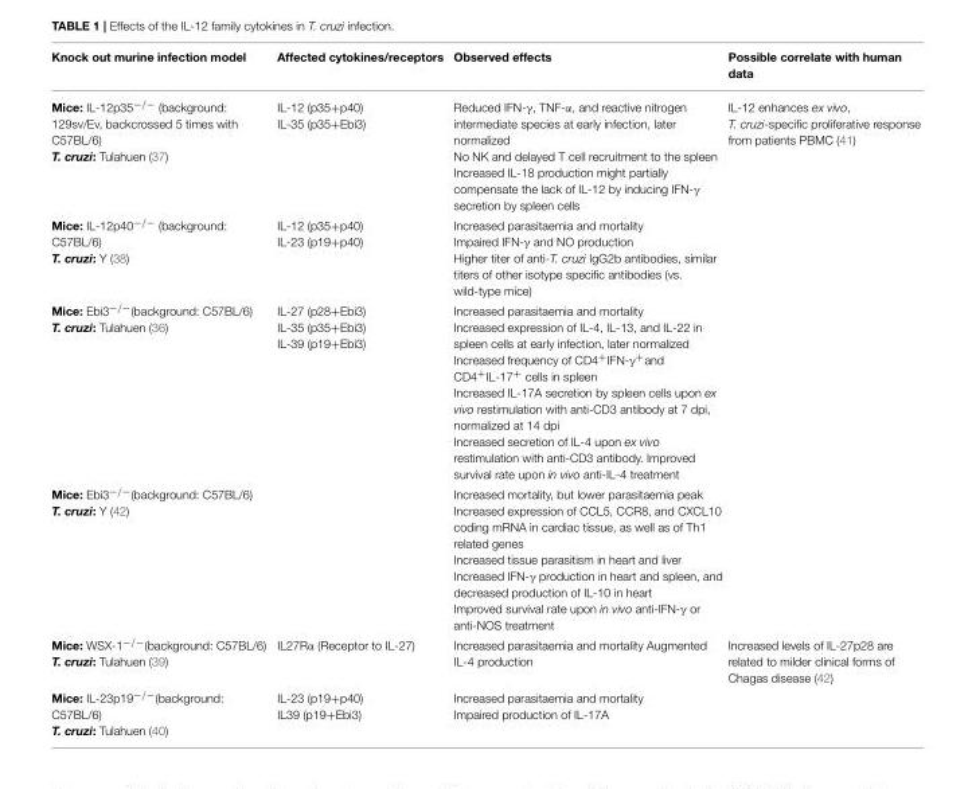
<table><thead><tr><td>Knock out murine infection model</td><td>Affected cytokines/receptors</td><td>Observed effects</td><td>Possible correlate with human data</td></tr></thead><tbody><tr><td>Mice: IL-12p35<sup>−/−</sup> (background: 129sv/Ev, backcrossed 5 times with C57BL/6) T. cruzi: Tulahuen (37)</td><td>IL-12 (p35+p40) IL-35 (p35+Ebi3)</td><td>Reduced IFN-γ, TNF-α, and reactive nitrogen intermediate species at early infection, later normalized No NK and delayed T cell recruitment to the spleen Increased IL-18 production might partially compensate the lack of IL-12 by inducing IFN-γ secretion by spleen cells</td><td>IL-12 enhances ex vivo, T. cruzi-specific proliferative response from patients PBMC (41)</td></tr><tr><td>Mice: IL-12p40<sup>−/−</sup> (background: C57BL/6) T. cruzi: Y (38)</td><td>IL-12 (p35+p40) IL-23 (p19+p40)</td><td>Increased parasitaemia and mortality Impaired IFN-γ and NO production Higher titer of anti-T. cruzi IgG2b antibodies, similar titers of other isotype specific antibodies (vs. wild-type mice)</td><td></td></tr><tr><td>Mice: Ebi3<sup>−/−</sup>(background: C57BL/6) T. cruzi: Tulahuen (36)</td><td>IL-27 (p28+Ebi3) IL-35 (p35+Ebi3) IL-39 (p19+Ebi3)</td><td>Increased parasitaemia and mortality Increased expression of IL-4, IL-13, and IL-22 in spleen cells at early infection, later normalized Increased frequency of CD4<sup>+</sup>IFN-γ<sup>+</sup>and CD4<sup>+</sup>IL-17<sup>+</sup> cells in spleen Increased IL-17A secretion by spleen cells upon ex vivo restimulation with anti-CD3 antibody at 7 dpi, normalized at 14 dpi Increased secretion of IL-4 upon ex vivo restimulation with anti-CD3 antibody. Improved survival rate upon in vivo anti-IL-4 treatment</td><td></td></tr><tr><td>Mice: Ebi3<sup>−/−</sup>(background: C57BL/6) T. cruzi: Y (42)</td><td></td><td>Increased mortality, but lower parasitaemia peak Increased expression of CCL5, CCR8, and CXCL10 coding mRNA in cardiac tissue, as well as of Th1 related genes Increased tissue parasitism in heart and liver Increased IFN-γ production in heart and spleen, and decreased production of IL-10 in heart Improved survival rate upon in vivo anti-IFN-γ or anti-NOS treatment</td><td></td></tr><tr><td>Mice: WSX-1<sup>−/−</sup>(background: C57BL/6) T. cruzi: Tulahuen (39)</td><td>IL27Rα (Receptor to IL-27)</td><td>Increased parasitaemia and mortality Augmented IL-4 production</td><td>Increased levels of IL-27p28 are related to milder clinical forms of Chagas disease (42)</td></tr><tr><td>Mice: IL-23p19<sup>−/−</sup>(background: C57BL/6) T. cruzi: Tulahuen (40)</td><td>IL-23 (p19+p40) IL39 (p19+Ebi3)</td><td>Increased parasitaemia and mortality Impaired production of IL-17A</td><td></td></tr></tbody></table>